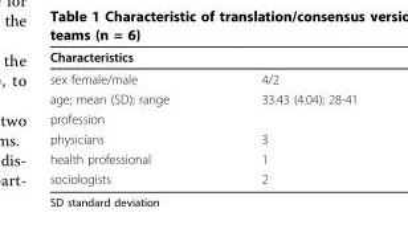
<table><thead><tr><td>Characteristics</td><td></td></tr></thead><tbody><tr><td>sex female/male</td><td>4/2</td></tr><tr><td>age; mean (SD); range</td><td>33.43 (4.04); 28-41</td></tr><tr><td colspan="2">profession</td></tr><tr><td>physicians</td><td>3</td></tr><tr><td>health professional</td><td>1</td></tr><tr><td>sociologists</td><td>2</td></tr></tbody></table>